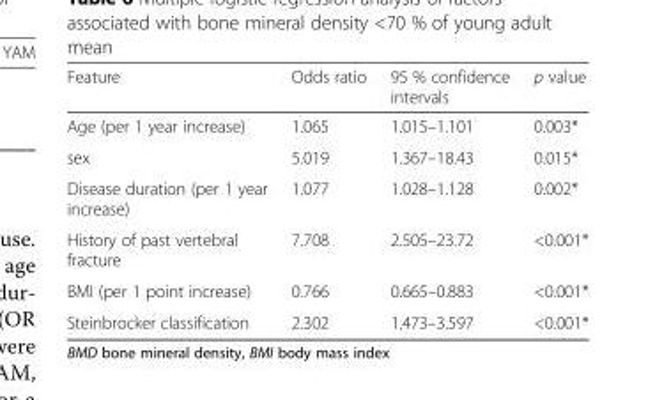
<table><thead><tr><td>Feature</td><td>Odds ratio</td><td>95 % confidence intervals</td><td>p value</td></tr></thead><tbody><tr><td>Age (per 1 year increase)</td><td>1.065</td><td>1.015–1.101</td><td>0.003*</td></tr><tr><td>sex</td><td>5.019</td><td>1.367–18.43</td><td>0.015*</td></tr><tr><td>Disease duration (per 1 year increase)</td><td>1.077</td><td>1.028–1.128</td><td>0.002*</td></tr><tr><td>History of past vertebral fracture</td><td>7.708</td><td>2.505–23.72</td><td>&lt;0.001*</td></tr><tr><td>BMI (per 1 point increase)</td><td>0.766</td><td>0.665–0.883</td><td>&lt;0.001*</td></tr><tr><td>Steinbrocker classification</td><td>2.302</td><td>1.473–3.597</td><td>&lt;0.001*</td></tr></tbody></table>